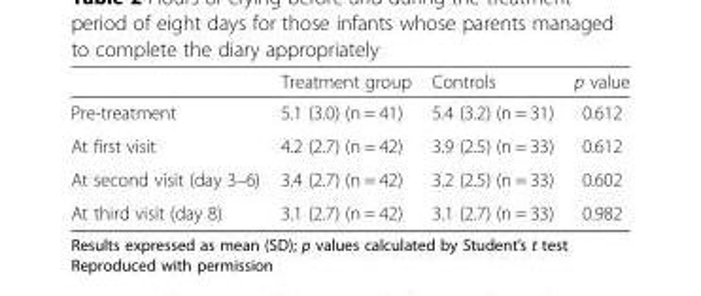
<table><thead><tr><td></td><td>Treatment group</td><td>Controls</td><td>p value</td></tr></thead><tbody><tr><td>Pre-treatment</td><td>5.1 (3.0) (n = 41)</td><td>5.4 (3.2) (n = 31)</td><td>0.612</td></tr><tr><td>At first visit</td><td>4.2 (2.7) (n = 42)</td><td>3.9 (2.5) (n = 33)</td><td>0.612</td></tr><tr><td>At second visit (day 3–6)</td><td>3.4 (2.7) (n = 42)</td><td>3.2 (2.5) (n = 33)</td><td>0.602</td></tr><tr><td>At third visit (day 8)</td><td>3.1 (2.7) (n = 42)</td><td>3.1 (2.7) (n = 33)</td><td>0.982</td></tr></tbody></table>